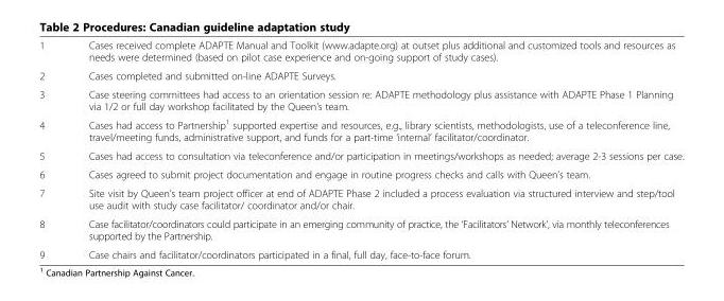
<table><tbody><tr><td>1</td><td>Cases received complete ADAPTE Manual and Toolkit (www.adapte.org) at outset plus additional and customized tools and resources as needs were determined (based on pilot case experience and on-going support of study cases).</td></tr><tr><td>2</td><td>Cases completed and submitted on-line ADAPTE Surveys.</td></tr><tr><td>3</td><td>Case steering committees had access to an orientation session re: ADAPTE methodology plus assistance with ADAPTE Phase 1 Planning via 1/2 or full day workshop facilitated by the Queen’s team.</td></tr><tr><td>4</td><td>Cases had access to Partnership<sup>1</sup> supported expertise and resources, e.g., library scientists, methodologists, use of a teleconference line, travel/meeting funds, administrative support, and funds for a part-time ‘internal’ facilitator/coordinator.</td></tr><tr><td>5</td><td>Cases had access to consultation via teleconference and/or participation in meetings/workshops as needed; average 2-3 sessions per case.</td></tr><tr><td>6</td><td>Cases agreed to submit project documentation and engage in routine progress checks and calls with Queen’s team.</td></tr><tr><td>7</td><td>Site visit by Queen’s team project officer at end of ADAPTE Phase 2 included a process evaluation via structured interview and step/tool use audit with study case facilitator/ coordinator and/or chair.</td></tr><tr><td>8</td><td>Case facilitator/coordinators could participate in an emerging community of practice, the ‘Facilitators’ Network’, via monthly teleconferences supported by the Partnership.</td></tr><tr><td>9</td><td>Case chairs and facilitator/coordinators participated in a final, full day, face-to-face forum.</td></tr></tbody></table>